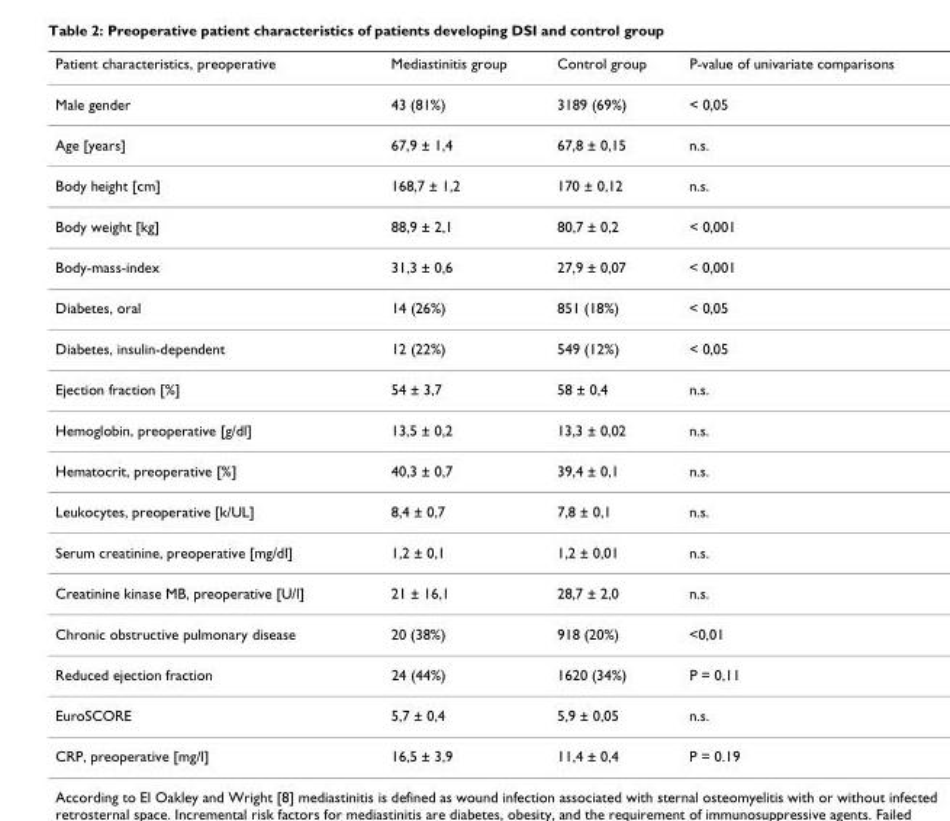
<table><thead><tr><td>Patient characteristics, preoperative</td><td>Mediastinitis group</td><td>Control group</td><td>P-value of univariate comparisons</td></tr></thead><tbody><tr><td>Male gender</td><td>43 (81%)</td><td>3189 (69%)</td><td>&lt; 0,05</td></tr><tr><td>Age [years]</td><td>67,9 ± 1,4</td><td>67,8 ± 0,15</td><td>n.s.</td></tr><tr><td>Body height [cm]</td><td>168,7 ± 1,2</td><td>170 ± 0,12</td><td>n.s.</td></tr><tr><td>Body weight [kg]</td><td>88,9 ± 2,1</td><td>80,7 ± 0,2</td><td>&lt; 0,001</td></tr><tr><td>Body-mass-index</td><td>31,3 ± 0,6</td><td>27,9 ± 0,07</td><td>&lt; 0,001</td></tr><tr><td>Diabetes, oral</td><td>14 (26%)</td><td>851 (18%)</td><td>&lt; 0,05</td></tr><tr><td>Diabetes, insulin-dependent</td><td>12 (22%)</td><td>549 (12%)</td><td>&lt; 0,05</td></tr><tr><td>Ejection fraction [%]</td><td>54 ± 3,7</td><td>58 ± 0,4</td><td>n.s.</td></tr><tr><td>Hemoglobin, preoperative [g/dl]</td><td>13,5 ± 0,2</td><td>13,3 ± 0,02</td><td>n.s.</td></tr><tr><td>Hematocrit, preoperative [%]</td><td>40,3 ± 0,7</td><td>39,4 ± 0,1</td><td>n.s.</td></tr><tr><td>Leukocytes, preoperative [k/UL]</td><td>8,4 ± 0,7</td><td>7,8 ± 0,1</td><td>n.s.</td></tr><tr><td>Serum creatinine, preoperative [mg/dl]</td><td>1,2 ± 0,1</td><td>1,2 ± 0,01</td><td>n.s.</td></tr><tr><td>Creatinine kinase MB, preoperative [U/l]</td><td>21 ± 16,1</td><td>28,7 ± 2,0</td><td>n.s.</td></tr><tr><td>Chronic obstructive pulmonary disease</td><td>20 (38%)</td><td>918 (20%)</td><td>&lt;0,01</td></tr><tr><td>Reduced ejection fraction</td><td>24 (44%)</td><td>1620 (34%)</td><td>P = 0,11</td></tr><tr><td>EuroSCORE</td><td>5,7 ± 0,4</td><td>5,9 ± 0,05</td><td>n.s.</td></tr><tr><td>CRP, preoperative [mg/l]</td><td>16,5 ± 3,9</td><td>11,4 ± 0,4</td><td>P = 0.19</td></tr></tbody></table>